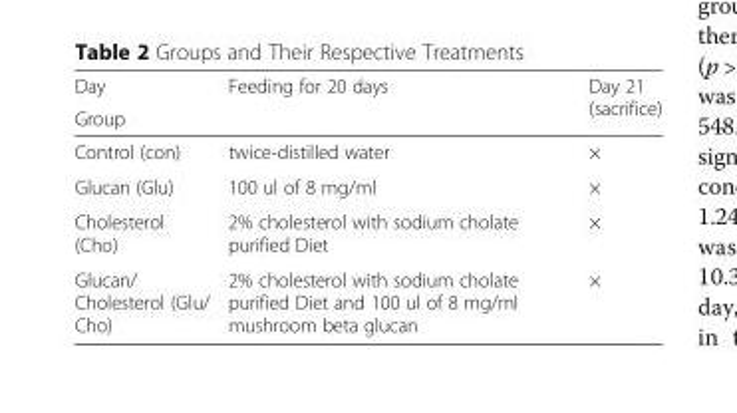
<table><thead><tr><td rowspan="2">Day Group</td><td rowspan="2">Feeding for 20 days</td><td rowspan="2">Day 21 (sacrifice)</td></tr><tr></tr></thead><tbody><tr><td>Control (con)</td><td>twice-distilled water</td><td>×</td></tr><tr><td>Glucan (Glu)</td><td>100 ul of 8 mg/ml</td><td>×</td></tr><tr><td>Cholesterol (Cho)</td><td>2% cholesterol with sodium cholate purified Diet</td><td>×</td></tr><tr><td>Glucan/ Cholesterol (Glu/ Cho)</td><td>2% cholesterol with sodium cholate purified Diet and 100 ul of 8 mg/ml mushroom beta glucan</td><td>×</td></tr></tbody></table>